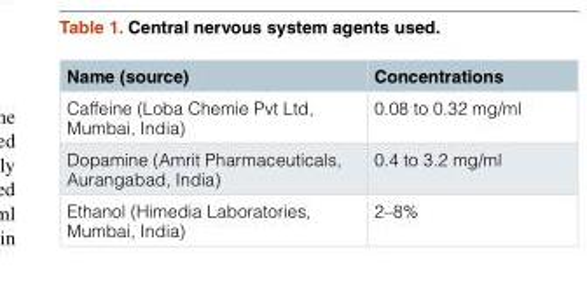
<table><thead><tr><td>Name (source)</td><td>Concentrations</td></tr></thead><tbody><tr><td>Caffeine (Loba Chemie Pvt Ltd, Mumbai, India)</td><td>0.08 to 0.32 mg/ml</td></tr><tr><td>Dopamine (Amrit Pharmaceuticals, Aurangabad, India)</td><td>0.4 to 3.2 mg/ml</td></tr><tr><td>Ethanol (Himedia Laboratories, Mumbai, India)</td><td>2–8%</td></tr></tbody></table>